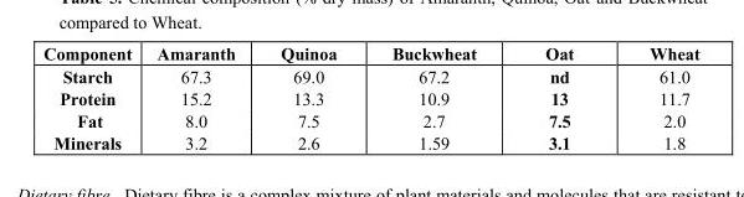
<table><thead><tr><td>Component</td><td>Amaranth</td><td>Quinoa</td><td>Buckwheat</td><td>Oat</td><td>Wheat</td></tr></thead><tbody><tr><td>Starch</td><td>67.3</td><td>69.0</td><td>67.2</td><td>nd</td><td>61.0</td></tr><tr><td>Protein</td><td>15.2</td><td>13.3</td><td>10.9</td><td>13</td><td>11.7</td></tr><tr><td>Fat</td><td>8.0</td><td>7.5</td><td>2.7</td><td>7.5</td><td>2.0</td></tr><tr><td>Minerals</td><td>3.2</td><td>2.6</td><td>1.59</td><td>3.1</td><td>1.8</td></tr></tbody></table>